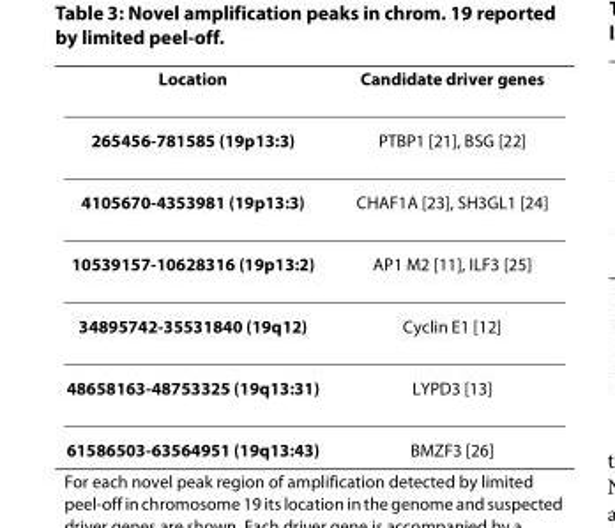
<table><thead><tr><td>Location</td><td>Candidate driver genes</td></tr></thead><tbody><tr><td>265456-781585 (19p13:3)</td><td>PTBP1 [21], BSG [22]</td></tr><tr><td>4105670-4353981 (19p13:3)</td><td>CHAF1A [23], SH3GL1 [24]</td></tr><tr><td>10539157-10628316 (19p13:2)</td><td>AP1 M2 [11], ILF3 [25]</td></tr><tr><td>34895742-35531840 (19q12)</td><td>Cyclin E1 [12]</td></tr><tr><td>48658163-48753325 (19q13:31)</td><td>LYPD3 [13]</td></tr><tr><td>61586503-63564951 (19q13:43)</td><td>BMZF3 [26]</td></tr></tbody></table>